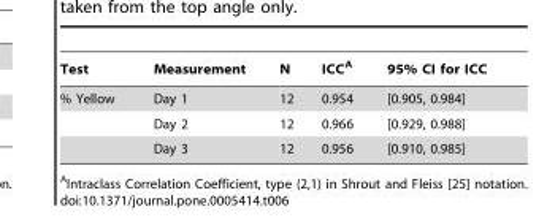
<table><thead><tr><td>Test</td><td>Measurement</td><td>N</td><td>ICC<sup>A</sup></td><td>95% CI for ICC</td></tr></thead><tbody><tr><td rowspan="3">% Yellow</td><td>Day 1</td><td>12</td><td>0.954</td><td>[0.905, 0.984]</td></tr><tr><td>Day 2</td><td>12</td><td>0.966</td><td>[0.929, 0.988]</td></tr><tr><td>Day 3</td><td>12</td><td>0.956</td><td>[0.910, 0.985]</td></tr></tbody></table>